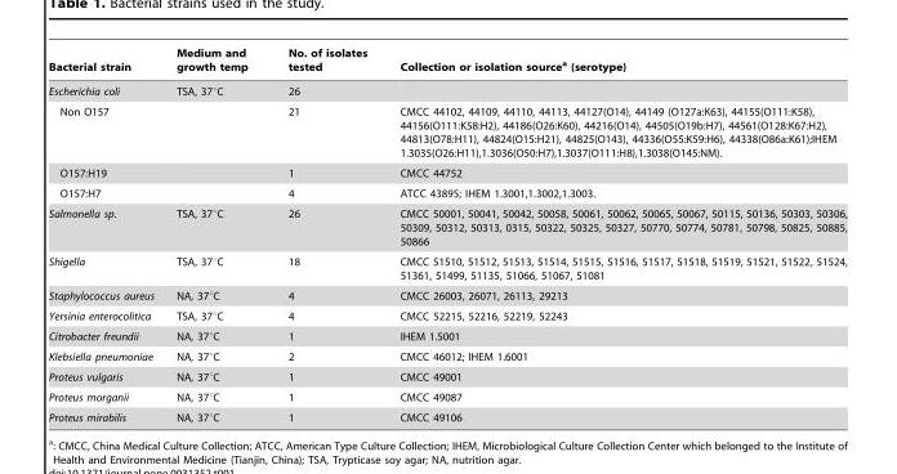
<table><thead><tr><td>Bacterial strain</td><td>Medium and growth temp</td><td>No. of isolates tested</td><td>Collection or isolation source<sup>a</sup> (serotype)</td></tr></thead><tbody><tr><td>Escherichia coli</td><td>TSA, 37°C</td><td>26</td><td></td></tr><tr><td>Non O157</td><td></td><td>21</td><td>CMCC 44102, 44109, 44110, 44113, 44127(O14), 44149 (O127a:K63), 44155(O111:K58), 44156(O111:K58:H2), 44186(O26:K60), 44216(O14), 44505(O19b:H7), 44561(O128:K67:H2), 44813(O78:H11), 44824(O15:H21), 44825(O143), 44336(O55:K59:H6), 44338(O86a:K61);IHEM 1.3035(O26:H11),1.3036(O50:H7),1.3037(O111:H8),1.3038(O145:NM).</td></tr><tr><td>O157:H19</td><td></td><td>1</td><td>CMCC 44752</td></tr><tr><td>O157:H7</td><td></td><td>4</td><td>ATCC 43895; IHEM 1.3001,1.3002,1.3003.</td></tr><tr><td>Salmonella sp.</td><td>TSA, 37°C</td><td>26</td><td>CMCC 50001, 50041, 50042, 50058, 50061, 50062, 50065, 50067, 50115, 50136, 50303, 50306, 50309, 50312, 50313, 0315, 50322, 50325, 50327, 50770, 50774, 50781, 50798, 50825, 50885, 50866</td></tr><tr><td>Shigella</td><td>TSA, 37°C</td><td>18</td><td>CMCC 51510, 51512, 51513, 51514, 51515, 51516, 51517, 51518, 51519, 51521, 51522, 51524, 51361, 51499, 51135, 51066, 51067, 51081</td></tr><tr><td>Staphylococcus aureus</td><td>NA, 37°C</td><td>4</td><td>CMCC 26003, 26071, 26113, 29213</td></tr><tr><td>Yersinia enterocolitica</td><td>TSA, 37°C</td><td>4</td><td>CMCC 52215, 52216, 52219, 52243</td></tr><tr><td>Citrobacter freundii</td><td>NA, 37°C</td><td>1</td><td>IHEM 1.5001</td></tr><tr><td>Klebsiella pneumoniae</td><td>NA, 37°C</td><td>2</td><td>CMCC 46012; IHEM 1.6001</td></tr><tr><td>Proteus vulgaris</td><td>NA, 37°C</td><td>1</td><td>CMCC 49001</td></tr><tr><td>Proteus morganii</td><td>NA, 37°C</td><td>1</td><td>CMCC 49087</td></tr><tr><td>Proteus mirabilis</td><td>NA, 37°C</td><td>1</td><td>CMCC 49106</td></tr></tbody></table>